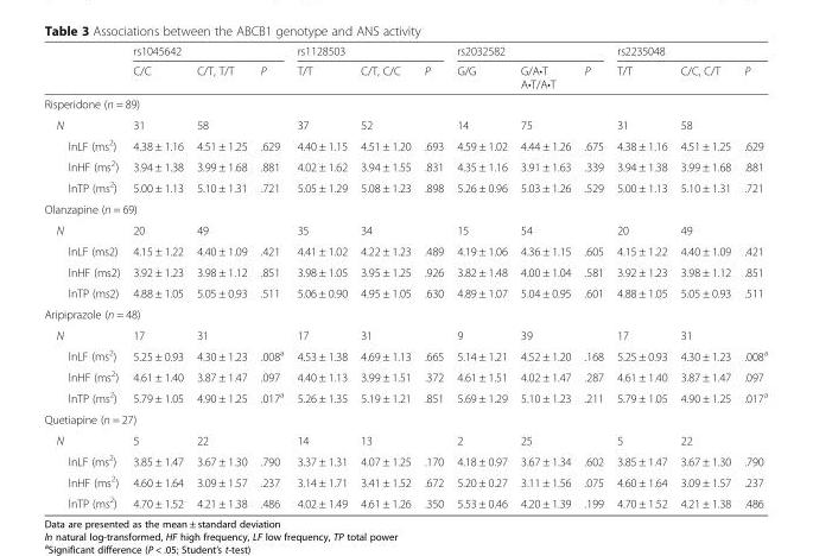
<table><thead><tr><td rowspan="2"></td><td colspan="3">rs1045642</td><td colspan="3">rs1128503</td><td colspan="3">rs2032582</td><td colspan="3">rs2235048</td></tr><tr><td>C/C</td><td>C/T, T/T</td><td>P</td><td>T/T</td><td>C/T, C/C</td><td>P</td><td>G/G</td><td>G/A•T A•T/A•T</td><td>P</td><td>T/T</td><td>C/C, C/T</td><td>P</td></tr></thead><tbody><tr><td colspan="13">Risperidone (n = 89)</td></tr><tr><td>N</td><td>31</td><td>58</td><td></td><td>37</td><td>52</td><td></td><td>14</td><td>75</td><td></td><td>31</td><td>58</td><td></td></tr><tr><td>lnLF (ms<sup>2</sup>)</td><td>4.38 ± 1.16</td><td>4.51 ± 1.25</td><td>.629</td><td>4.40 ± 1.15</td><td>4.51 ± 1.20</td><td>.693</td><td>4.59 ± 1.02</td><td>4.44 ± 1.26</td><td>.675</td><td>4.38 ± 1.16</td><td>4.51 ± 1.25</td><td>.629</td></tr><tr><td>lnHF (ms<sup>2</sup>)</td><td>3.94 ± 1.38</td><td>3.99 ± 1.68</td><td>.881</td><td>4.02 ± 1.62</td><td>3.94 ± 1.55</td><td>.831</td><td>4.35 ± 1.16</td><td>3.91 ± 1.63</td><td>.339</td><td>3.94 ± 1.38</td><td>3.99 ± 1.68</td><td>.881</td></tr><tr><td>lnTP (ms<sup>2</sup>)</td><td>5.00 ± 1.13</td><td>5.10 ± 1.31</td><td>.721</td><td>5.05 ± 1.29</td><td>5.08 ± 1.23</td><td>.898</td><td>5.26 ± 0.96</td><td>5.03 ± 1.26</td><td>.529</td><td>5.00 ± 1.13</td><td>5.10 ± 1.31</td><td>.721</td></tr><tr><td colspan="13">Olanzapine (n = 69)</td></tr><tr><td>N</td><td>20</td><td>49</td><td></td><td>35</td><td>34</td><td></td><td>15</td><td>54</td><td></td><td>20</td><td>49</td><td></td></tr><tr><td>lnLF (ms2)</td><td>4.15 ± 1.22</td><td>4.40 ± 1.09</td><td>.421</td><td>4.41 ± 1.02</td><td>4.22 ± 1.23</td><td>.489</td><td>4.19 ± 1.06</td><td>4.36 ± 1.15</td><td>.605</td><td>4.15 ± 1.22</td><td>4.40 ± 1.09</td><td>.421</td></tr><tr><td>lnHF (ms2)</td><td>3.92 ± 1.23</td><td>3.98 ± 1.12</td><td>.851</td><td>3.98 ± 1.05</td><td>3.95 ± 1.25</td><td>.926</td><td>3.82 ± 1.48</td><td>4.00 ± 1.04</td><td>.581</td><td>3.92 ± 1.23</td><td>3.98 ± 1.12</td><td>.851</td></tr><tr><td>lnTP (ms2)</td><td>4.88 ± 1.05</td><td>5.05 ± 0.93</td><td>.511</td><td>5.06 ± 0.90</td><td>4.95 ± 1.05</td><td>.630</td><td>4.89 ± 1.07</td><td>5.04 ± 0.95</td><td>.601</td><td>4.88 ± 1.05</td><td>5.05 ± 0.93</td><td>.511</td></tr><tr><td colspan="13">Aripiprazole (n = 48)</td></tr><tr><td>N</td><td>17</td><td>31</td><td></td><td>17</td><td>31</td><td></td><td>9</td><td>39</td><td></td><td>17</td><td>31</td><td></td></tr><tr><td>lnLF (ms<sup>2</sup>)</td><td>5.25 ± 0.93</td><td>4.30 ± 1.23</td><td>.008<sup>a</sup></td><td>4.53 ± 1.38</td><td>4.69 ± 1.13</td><td>.665</td><td>5.14 ± 1.21</td><td>4.52 ± 1.20</td><td>.168</td><td>5.25 ± 0.93</td><td>4.30 ± 1.23</td><td>.008<sup>a</sup></td></tr><tr><td>lnHF (ms<sup>2</sup>)</td><td>4.61 ± 1.40</td><td>3.87 ± 1.47</td><td>.097</td><td>4.40 ± 1.13</td><td>3.99 ± 1.51</td><td>.372</td><td>4.61 ± 1.51</td><td>4.02 ± 1.47</td><td>.287</td><td>4.61 ± 1.40</td><td>3.87 ± 1.47</td><td>.097</td></tr><tr><td>lnTP (ms<sup>2</sup>)</td><td>5.79 ± 1.05</td><td>4.90 ± 1.25</td><td>.017<sup>a</sup></td><td>5.26 ± 1.35</td><td>5.19 ± 1.21</td><td>.851</td><td>5.69 ± 1.29</td><td>5.10 ± 1.23</td><td>.211</td><td>5.79 ± 1.05</td><td>4.90 ± 1.25</td><td>.017<sup>a</sup></td></tr><tr><td colspan="13">Quetiapine (n = 27)</td></tr><tr><td>N</td><td>5</td><td>22</td><td></td><td>14</td><td>13</td><td></td><td>2</td><td>25</td><td></td><td>5</td><td>22</td><td></td></tr><tr><td>lnLF (ms<sup>2</sup>)</td><td>3.85 ± 1.47</td><td>3.67 ± 1.30</td><td>.790</td><td>3.37 ± 1.31</td><td>4.07 ± 1.25</td><td>.170</td><td>4.18 ± 0.97</td><td>3.67 ± 1.34</td><td>.602</td><td>3.85 ± 1.47</td><td>3.67 ± 1.30</td><td>.790</td></tr><tr><td>lnHF (ms<sup>2</sup>)</td><td>4.60 ± 1.64</td><td>3.09 ± 1.57</td><td>.237</td><td>3.14 ± 1.71</td><td>3.41 ± 1.52</td><td>.672</td><td>5.20 ± 0.27</td><td>3.11 ± 1.56</td><td>.075</td><td>4.60 ± 1.64</td><td>3.09 ± 1.57</td><td>.237</td></tr><tr><td>lnTP (ms<sup>2</sup>)</td><td>4.70 ± 1.52</td><td>4.21 ± 1.38</td><td>.486</td><td>4.02 ± 1.49</td><td>4.61 ± 1.26</td><td>.350</td><td>5.53 ± 0.46</td><td>4.20 ± 1.39</td><td>.199</td><td>4.70 ± 1.52</td><td>4.21 ± 1.38</td><td>.486</td></tr></tbody></table>